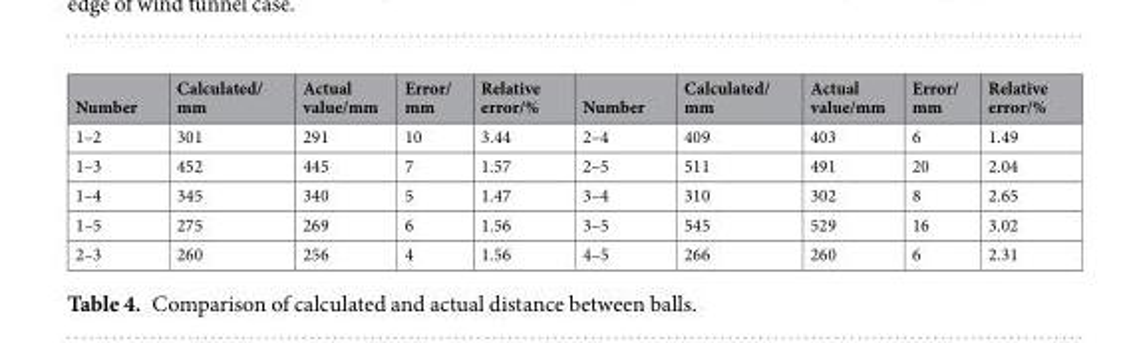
<table><thead><tr><td>Number</td><td>Calculated/ mm</td><td>Actual value/mm</td><td>Error/ mm</td><td>Relative error/%</td><td>Number</td><td>Calculated/ mm</td><td>Actual value/mm</td><td>Error/ mm</td><td>Relative error/%</td></tr></thead><tbody><tr><td>1–2</td><td>301</td><td>291</td><td>10</td><td>3.44</td><td>2–4</td><td>409</td><td>403</td><td>6</td><td>1.49</td></tr><tr><td>1–3</td><td>452</td><td>445</td><td>7</td><td>1.57</td><td>2–5</td><td>511</td><td>491</td><td>20</td><td>2.04</td></tr><tr><td>1–4</td><td>345</td><td>340</td><td>5</td><td>1.47</td><td>3–4</td><td>310</td><td>302</td><td>8</td><td>2.65</td></tr><tr><td>1–5</td><td>275</td><td>269</td><td>6</td><td>1.56</td><td>3–5</td><td>545</td><td>529</td><td>16</td><td>3.02</td></tr><tr><td>2–3</td><td>260</td><td>256</td><td>4</td><td>1.56</td><td>4–5</td><td>266</td><td>260</td><td>6</td><td>2.31</td></tr></tbody></table>